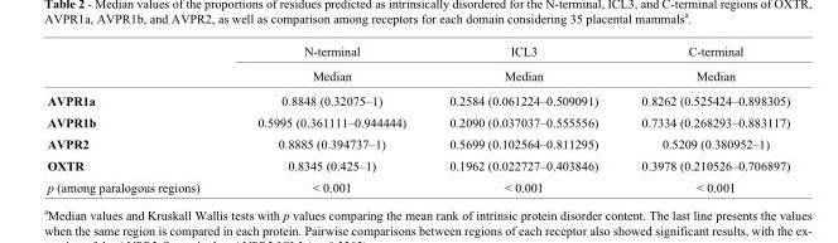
<table><thead><tr><td rowspan="2"></td><td rowspan="2">N-terminal Median</td><td rowspan="2">ICL3 Median</td><td rowspan="2">C-terminal Median</td></tr><tr></tr></thead><tbody><tr><td>AVPR1a</td><td>0.8848 (0.32075–1)</td><td>0.2584 (0.061224–0.509091)</td><td>0.8262 (0.525424–0.898305)</td></tr><tr><td>AVPR1b</td><td>0.5995 (0.361111–0.944444)</td><td>0.2090 (0.037037–0.555556)</td><td>0.7334 (0.268293–0.883117)</td></tr><tr><td>AVPR2</td><td>0.8885 (0.394737–1)</td><td>0.5699 (0.102564–0.811295)</td><td>0.5209 (0.380952–1)</td></tr><tr><td>OXTR</td><td>0.8345 (0.425–1)</td><td>0.1962 (0.022727–0.403846)</td><td>0.3978 (0.210526–0.706897)</td></tr><tr><td>p (among paralogous regions)</td><td>&lt; 0.001</td><td>&lt; 0.001</td><td>&lt; 0.001</td></tr></tbody></table>